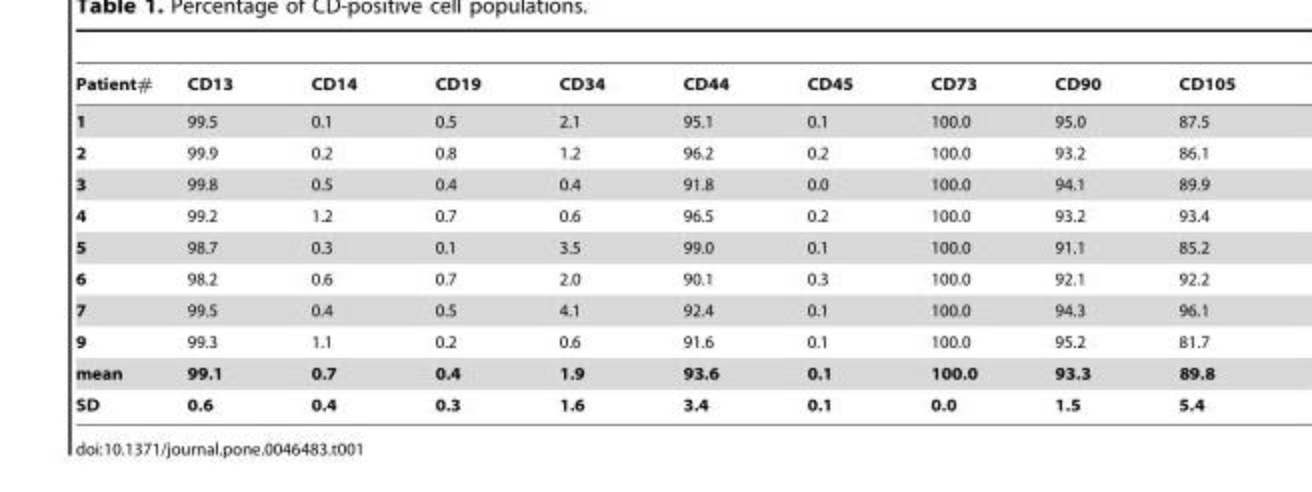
<table><thead><tr><td>Patient#</td><td>CD13</td><td>CD14</td><td>CD19</td><td>CD34</td><td>CD44</td><td>CD45</td><td>CD73</td><td>CD90</td><td>CD105</td></tr></thead><tbody><tr><td>1</td><td>99.5</td><td>0.1</td><td>0.5</td><td>2.1</td><td>95.1</td><td>0.1</td><td>100.0</td><td>95.0</td><td>87.5</td></tr><tr><td>2</td><td>99.9</td><td>0.2</td><td>0.8</td><td>1.2</td><td>96.2</td><td>0.2</td><td>100.0</td><td>93.2</td><td>86.1</td></tr><tr><td>3</td><td>99.8</td><td>0.5</td><td>0.4</td><td>0.4</td><td>91.8</td><td>0.0</td><td>100.0</td><td>94.1</td><td>89.9</td></tr><tr><td>4</td><td>99.2</td><td>1.2</td><td>0.7</td><td>0.6</td><td>96.5</td><td>0.2</td><td>100.0</td><td>93.2</td><td>93.4</td></tr><tr><td>5</td><td>98.7</td><td>0.3</td><td>0.1</td><td>3.5</td><td>99.0</td><td>0.1</td><td>100.0</td><td>91.1</td><td>85.2</td></tr><tr><td>6</td><td>98.2</td><td>0.6</td><td>0.7</td><td>2.0</td><td>90.1</td><td>0.3</td><td>100.0</td><td>92.1</td><td>92.2</td></tr><tr><td>7</td><td>99.5</td><td>0.4</td><td>0.5</td><td>4.1</td><td>92.4</td><td>0.1</td><td>100.0</td><td>94.3</td><td>96.1</td></tr><tr><td>9</td><td>99.3</td><td>1.1</td><td>0.2</td><td>0.6</td><td>91.6</td><td>0.1</td><td>100.0</td><td>95.2</td><td>81.7</td></tr><tr><td>mean</td><td>99.1</td><td>0.7</td><td>0.4</td><td>1.9</td><td>93.6</td><td>0.1</td><td>100.0</td><td>93.3</td><td>89.8</td></tr><tr><td>SD</td><td>0.6</td><td>0.4</td><td>0.3</td><td>1.6</td><td>3.4</td><td>0.1</td><td>0.0</td><td>1.5</td><td>5.4</td></tr></tbody></table>